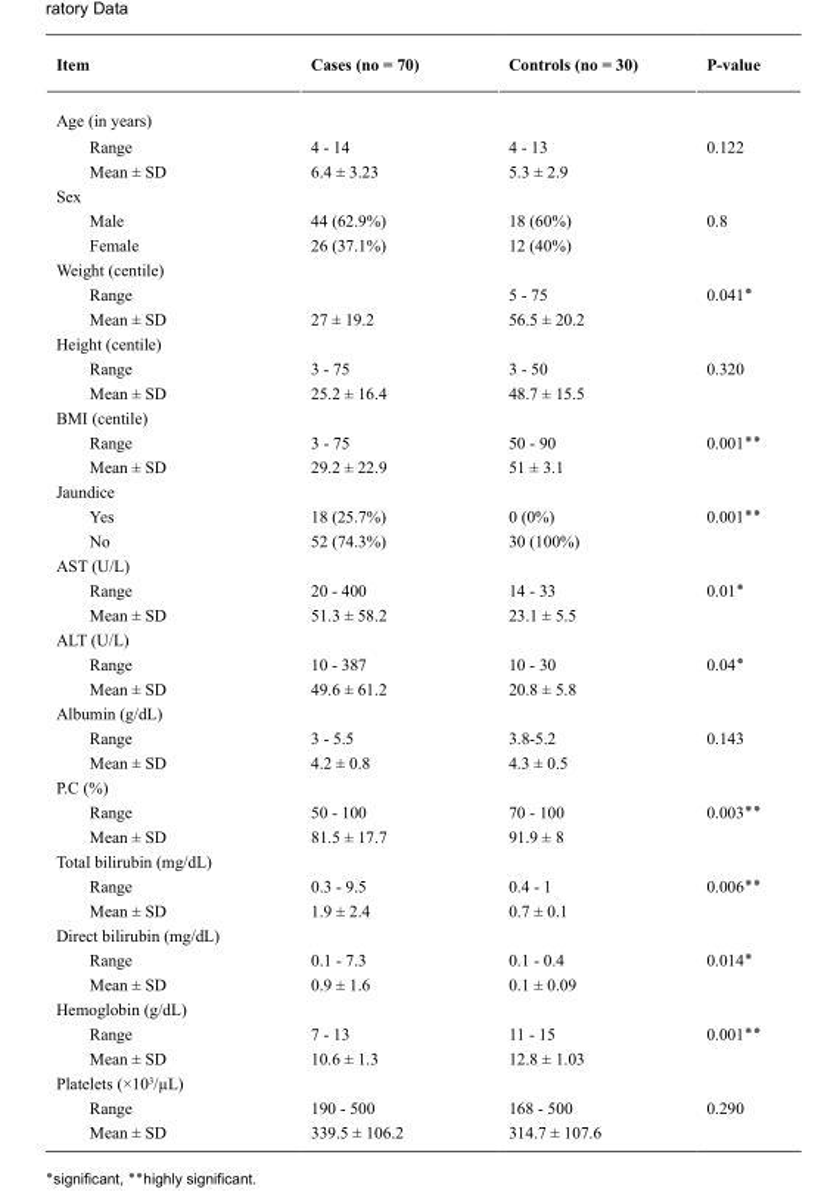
<table><thead><tr><td>Item</td><td>Cases (no = 70)</td><td>Controls (no = 30)</td><td>P-value</td></tr></thead><tbody><tr><td colspan="4">Age (in years)</td></tr><tr><td>Range</td><td>4 - 14</td><td>4 - 13</td><td>0.122</td></tr><tr><td>Mean ± SD</td><td>6.4 ± 3.23</td><td>5.3 ± 2.9</td><td></td></tr><tr><td colspan="4">Sex</td></tr><tr><td>Male</td><td>44 (62.9%)</td><td>18 (60%)</td><td>0.8</td></tr><tr><td>Female</td><td>26 (37.1%)</td><td>12 (40%)</td><td></td></tr><tr><td colspan="4">Weight (centile)</td></tr><tr><td>Range</td><td></td><td>5 - 75</td><td>0.041٭</td></tr><tr><td>Mean ± SD</td><td>27 ± 19.2</td><td>56.5 ± 20.2</td><td></td></tr><tr><td colspan="4">Height (centile)</td></tr><tr><td>Range</td><td>3 - 75</td><td>3 - 50</td><td>0.320</td></tr><tr><td>Mean ± SD</td><td>25.2 ± 16.4</td><td>48.7 ± 15.5</td><td></td></tr><tr><td colspan="4">BMI (centile)</td></tr><tr><td>Range</td><td>3 - 75</td><td>50 - 90</td><td>0.001٭٭</td></tr><tr><td>Mean ± SD</td><td>29.2 ± 22.9</td><td>51 ± 3.1</td><td></td></tr><tr><td colspan="4">Jaundice</td></tr><tr><td>Yes</td><td>18 (25.7%)</td><td>0 (0%)</td><td>0.001٭٭</td></tr><tr><td>No</td><td>52 (74.3%)</td><td>30 (100%)</td><td></td></tr><tr><td colspan="4">AST (U/L)</td></tr><tr><td>Range</td><td>20 - 400</td><td>14 - 33</td><td>0.01٭</td></tr><tr><td>Mean ± SD</td><td>51.3 ± 58.2</td><td>23.1 ± 5.5</td><td></td></tr><tr><td colspan="4">ALT (U/L)</td></tr><tr><td>Range</td><td>10 - 387</td><td>10 - 30</td><td>0.04٭</td></tr><tr><td>Mean ± SD</td><td>49.6 ± 61.2</td><td>20.8 ± 5.8</td><td></td></tr><tr><td colspan="4">Albumin (g/dL)</td></tr><tr><td>Range</td><td>3 - 5.5</td><td>3.8-5.2</td><td>0.143</td></tr><tr><td>Mean ± SD</td><td>4.2 ± 0.8</td><td>4.3 ± 0.5</td><td></td></tr><tr><td colspan="4">P.C (%)</td></tr><tr><td>Range</td><td>50 - 100</td><td>70 - 100</td><td>0.003٭٭</td></tr><tr><td>Mean ± SD</td><td>81.5 ± 17.7</td><td>91.9 ± 8</td><td></td></tr><tr><td colspan="4">Total bilirubin (mg/dL)</td></tr><tr><td>Range</td><td>0.3 - 9.5</td><td>0.4 - 1</td><td>0.006٭٭</td></tr><tr><td>Mean ± SD</td><td>1.9 ± 2.4</td><td>0.7 ± 0.1</td><td></td></tr><tr><td colspan="4">Direct bilirubin (mg/dL)</td></tr><tr><td>Range</td><td>0.1 - 7.3</td><td>0.1 - 0.4</td><td>0.014٭</td></tr><tr><td>Mean ± SD</td><td>0.9 ± 1.6</td><td>0.1 ± 0.09</td><td></td></tr><tr><td colspan="4">Hemoglobin (g/dL)</td></tr><tr><td>Range</td><td>7 - 13</td><td>11 - 15</td><td>0.001٭٭</td></tr><tr><td>Mean ± SD</td><td>10.6 ± 1.3</td><td>12.8 ± 1.03</td><td></td></tr><tr><td colspan="4">Platelets (×10<sup>3</sup>/µL)</td></tr><tr><td>Range</td><td>190 - 500</td><td>168 - 500</td><td>0.290</td></tr><tr><td>Mean ± SD</td><td>339.5 ± 106.2</td><td>314.7 ± 107.6</td><td></td></tr></tbody></table>